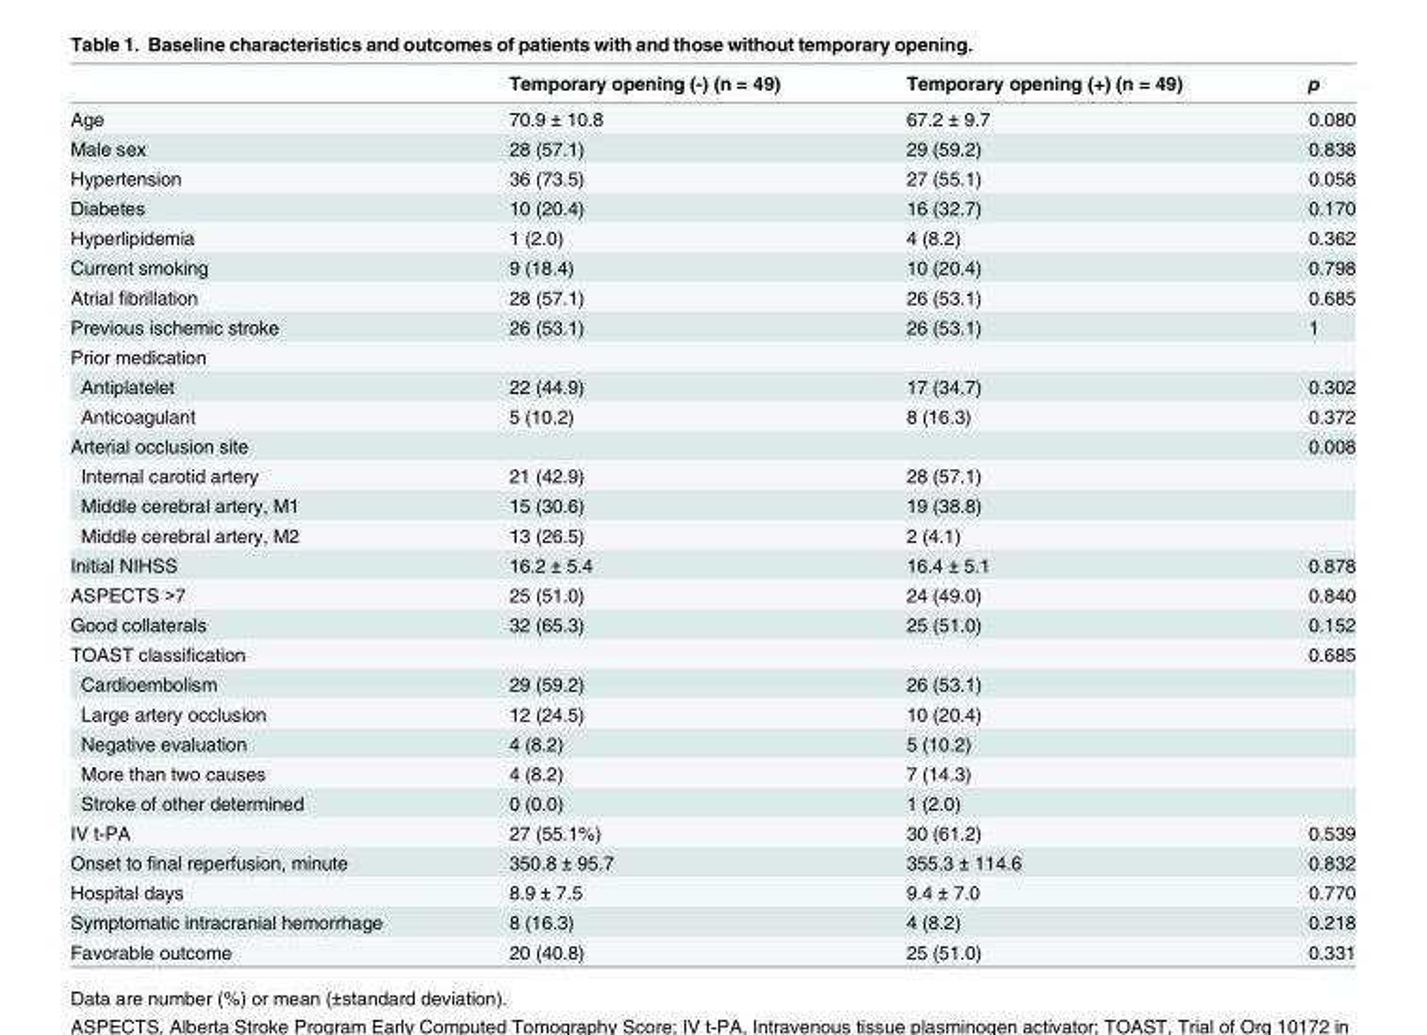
<table><thead><tr><td></td><td>Temporary opening (-) (n = 49)</td><td>Temporary opening (+) (n = 49)</td><td>p</td></tr></thead><tbody><tr><td>Age</td><td>70.9 ± 10.8</td><td>67.2 ± 9.7</td><td>0.080</td></tr><tr><td>Male sex</td><td>28 (57.1)</td><td>29 (59.2)</td><td>0.838</td></tr><tr><td>Hypertension</td><td>36 (73.5)</td><td>27 (55.1)</td><td>0.058</td></tr><tr><td>Diabetes</td><td>10 (20.4)</td><td>16 (32.7)</td><td>0.170</td></tr><tr><td>Hyperlipidemia</td><td>1 (2.0)</td><td>4 (8.2)</td><td>0.362</td></tr><tr><td>Current smoking</td><td>9 (18.4)</td><td>10 (20.4)</td><td>0.798</td></tr><tr><td>Atrial fibrillation</td><td>28 (57.1)</td><td>26 (53.1)</td><td>0.685</td></tr><tr><td>Previous ischemic stroke</td><td>26 (53.1)</td><td>26 (53.1)</td><td>1</td></tr><tr><td colspan="4">Prior medication</td></tr><tr><td>Antiplatelet</td><td>22 (44.9)</td><td>17 (34.7)</td><td>0.302</td></tr><tr><td>Anticoagulant</td><td>5 (10.2)</td><td>8 (16.3)</td><td>0.372</td></tr><tr><td>Arterial occlusion site</td><td></td><td></td><td>0.008</td></tr><tr><td>Internal carotid artery</td><td>21 (42.9)</td><td>28 (57.1)</td><td></td></tr><tr><td>Middle cerebral artery, M1</td><td>15 (30.6)</td><td>19 (38.8)</td><td></td></tr><tr><td>Middle cerebral artery, M2</td><td>13 (26.5)</td><td>2 (4.1)</td><td></td></tr><tr><td>Initial NIHSS</td><td>16.2 ± 5.4</td><td>16.4 ± 5.1</td><td>0.878</td></tr><tr><td>ASPECTS &gt;7</td><td>25 (51.0)</td><td>24 (49.0)</td><td>0.840</td></tr><tr><td>Good collaterals</td><td>32 (65.3)</td><td>25 (51.0)</td><td>0.152</td></tr><tr><td>TOAST classification</td><td></td><td></td><td>0.685</td></tr><tr><td>Cardioembolism</td><td>29 (59.2)</td><td>26 (53.1)</td><td></td></tr><tr><td>Large artery occlusion</td><td>12 (24.5)</td><td>10 (20.4)</td><td></td></tr><tr><td>Negative evaluation</td><td>4 (8.2)</td><td>5 (10.2)</td><td></td></tr><tr><td>More than two causes</td><td>4 (8.2)</td><td>7 (14.3)</td><td></td></tr><tr><td>Stroke of other determined</td><td>0 (0.0)</td><td>1 (2.0)</td><td></td></tr><tr><td>IV t-PA</td><td>27 (55.1%)</td><td>30 (61.2)</td><td>0.539</td></tr><tr><td>Onset to final reperfusion, minute</td><td>350.8 ± 95.7</td><td>355.3 ± 114.6</td><td>0.832</td></tr><tr><td>Hospital days</td><td>8.9 ± 7.5</td><td>9.4 ± 7.0</td><td>0.770</td></tr><tr><td>Symptomatic intracranial hemorrhage</td><td>8 (16.3)</td><td>4 (8.2)</td><td>0.218</td></tr><tr><td>Favorable outcome</td><td>20 (40.8)</td><td>25 (51.0)</td><td>0.331</td></tr></tbody></table>